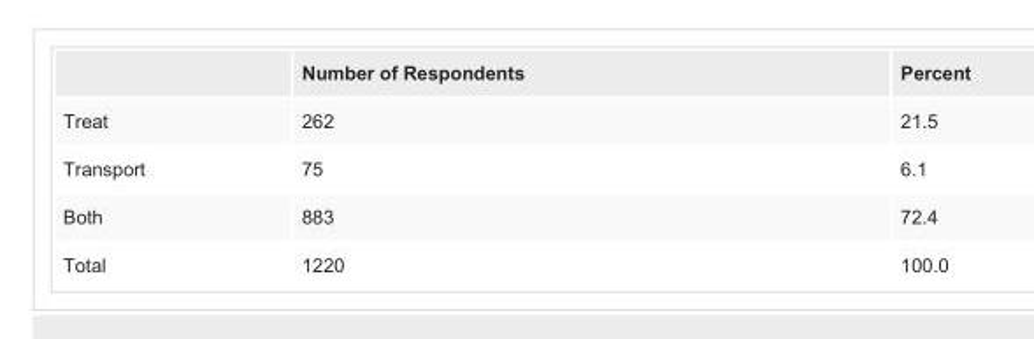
<table><thead><tr><td></td><td>Number of Respondents</td><td>Percent</td></tr></thead><tbody><tr><td>Treat</td><td>262</td><td>21.5</td></tr><tr><td>Transport</td><td>75</td><td>6.1</td></tr><tr><td>Both</td><td>883</td><td>72.4</td></tr><tr><td>Total</td><td>1220</td><td>100.0</td></tr></tbody></table>